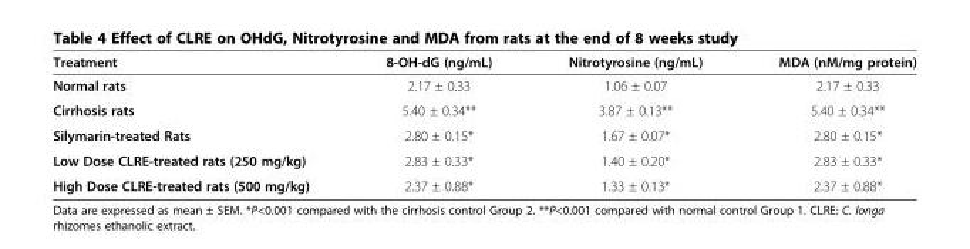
<table><thead><tr><td>Treatment</td><td>8-OH-dG (ng/mL)</td><td>Nitrotyrosine (ng/mL)</td><td>MDA (nM/mg protein)</td></tr></thead><tbody><tr><td>Normal rats</td><td>2.17 ± 0.33</td><td>1.06 ± 0.07</td><td>2.17 ± 0.33</td></tr><tr><td>Cirrhosis rats</td><td>5.40 ± 0.34**</td><td>3.87 ± 0.13**</td><td>5.40 ± 0.34**</td></tr><tr><td>Silymarin-treated Rats</td><td>2.80 ± 0.15*</td><td>1.67 ± 0.07*</td><td>2.80 ± 0.15*</td></tr><tr><td>Low Dose CLRE-treated rats (250 mg/kg)</td><td>2.83 ± 0.33*</td><td>1.40 ± 0.20*</td><td>2.83 ± 0.33*</td></tr><tr><td>High Dose CLRE-treated rats (500 mg/kg)</td><td>2.37 ± 0.88*</td><td>1.33 ± 0.13*</td><td>2.37 ± 0.88*</td></tr></tbody></table>